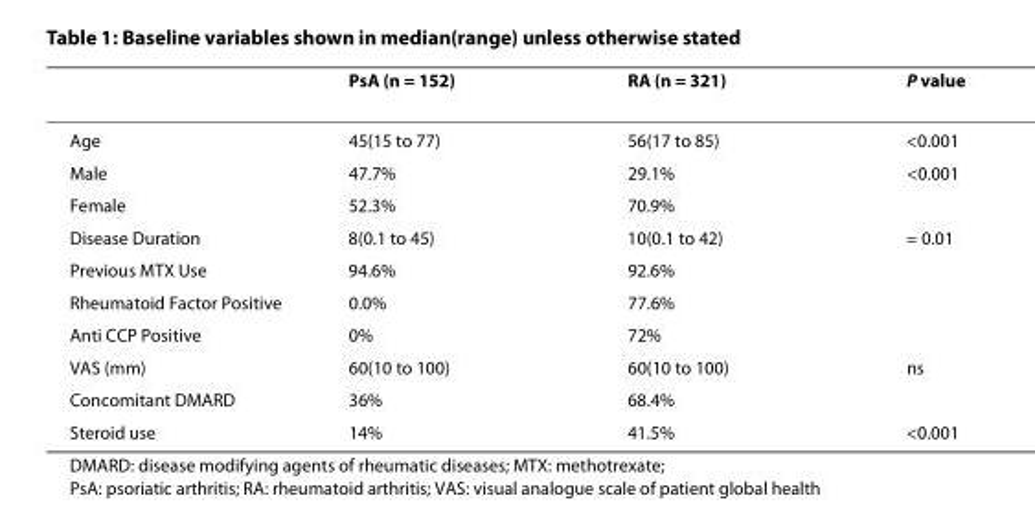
<table><thead><tr><td></td><td>PsA (n = 152)</td><td>RA (n = 321)</td><td>P value</td></tr></thead><tbody><tr><td>Age</td><td>45(15 to 77)</td><td>56(17 to 85)</td><td>&lt;0.001</td></tr><tr><td>Male</td><td>47.7%</td><td>29.1%</td><td>&lt;0.001</td></tr><tr><td>Female</td><td>52.3%</td><td>70.9%</td><td></td></tr><tr><td>Disease Duration</td><td>8(0.1 to 45)</td><td>10(0.1 to 42)</td><td>= 0.01</td></tr><tr><td>Previous MTX Use</td><td>94.6%</td><td>92.6%</td><td></td></tr><tr><td>Rheumatoid Factor Positive</td><td>0.0%</td><td>77.6%</td><td></td></tr><tr><td>Anti CCP Positive</td><td>0%</td><td>72%</td><td></td></tr><tr><td>VAS (mm)</td><td>60(10 to 100)</td><td>60(10 to 100)</td><td>ns</td></tr><tr><td>Concomitant DMARD</td><td>36%</td><td>68.4%</td><td></td></tr><tr><td>Steroid use</td><td>14%</td><td>41.5%</td><td>&lt;0.001</td></tr></tbody></table>